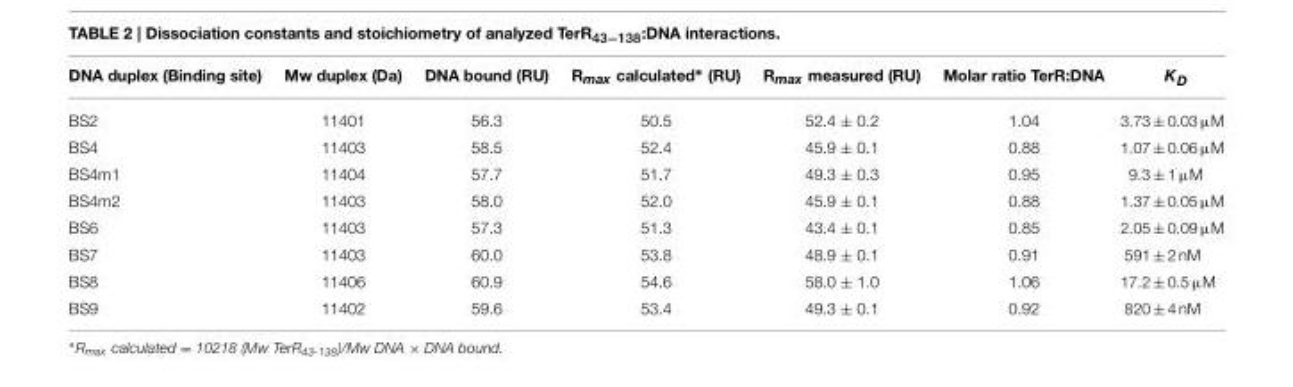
<table><thead><tr><td>DNA duplex (Binding site)</td><td>Mw duplex (Da)</td><td>DNA bound (RU)</td><td>Rmax calculated∗ (RU)</td><td>R<sub>max</sub> measured (RU)</td><td>Molar ratio TerR:DNA</td><td>K<sub>D</sub></td></tr></thead><tbody><tr><td>BS2</td><td>11401</td><td>56.3</td><td>50.5</td><td>52.4 ± 0.2</td><td>1.04</td><td>3.73 ± 0.03 µM</td></tr><tr><td>BS4</td><td>11403</td><td>58.5</td><td>52.4</td><td>45.9 ± 0.1</td><td>0.88</td><td>1.07 ± 0.06 µM</td></tr><tr><td>BS4m1</td><td>11404</td><td>57.7</td><td>51.7</td><td>49.3 ± 0.3</td><td>0.95</td><td>9.3 ± 1 µM</td></tr><tr><td>BS4m2</td><td>11403</td><td>58.0</td><td>52.0</td><td>45.9 ± 0.1</td><td>0.88</td><td>1.37 ± 0.05 µM</td></tr><tr><td>BS6</td><td>11403</td><td>57.3</td><td>51.3</td><td>43.4 ± 0.1</td><td>0.85</td><td>2.05 ± 0.09 µM</td></tr><tr><td>BS7</td><td>11403</td><td>60.0</td><td>53.8</td><td>48.9 ± 0.1</td><td>0.91</td><td>591 ± 2 nM</td></tr><tr><td>BS8</td><td>11406</td><td>60.9</td><td>54.6</td><td>58.0 ± 1.0</td><td>1.06</td><td>17.2 ± 0.5 µM</td></tr><tr><td>BS9</td><td>11402</td><td>59.6</td><td>53.4</td><td>49.3 ± 0.1</td><td>0.92</td><td>820 ± 4 nM</td></tr></tbody></table>